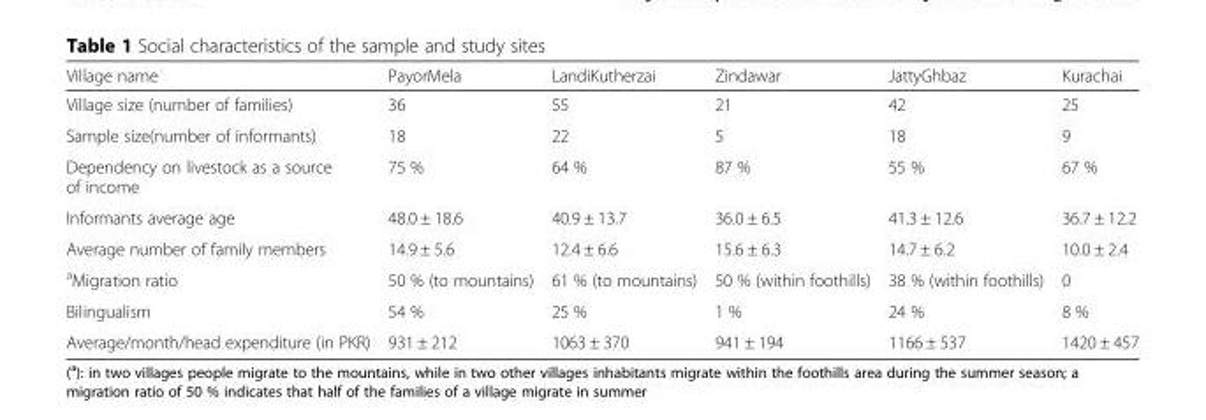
<table><thead><tr><td>Village name</td><td>PayorMela</td><td>LandiKutherzai</td><td>Zindawar</td><td>JattyGhbaz</td><td>Kurachai</td></tr></thead><tbody><tr><td>Village size (number of families)</td><td>36</td><td>55</td><td>21</td><td>42</td><td>25</td></tr><tr><td>Sample size(number of informants)</td><td>18</td><td>22</td><td>5</td><td>18</td><td>9</td></tr><tr><td>Dependency on livestock as a source of income</td><td>75 %</td><td>64 %</td><td>87 %</td><td>55 %</td><td>67 %</td></tr><tr><td>Informants average age</td><td>48.0 ± 18.6</td><td>40.9 ± 13.7</td><td>36.0 ± 6.5</td><td>41.3 ± 12.6</td><td>36.7 ± 12.2</td></tr><tr><td>Average number of family members</td><td>14.9 ± 5.6</td><td>12.4 ± 6.6</td><td>15.6 ± 6.3</td><td>14.7 ± 6.2</td><td>10.0 ± 2.4</td></tr><tr><td><sup>a</sup>Migration ratio</td><td>50 % (to mountains)</td><td>61 % (to mountains)</td><td>50 % (within foothills)</td><td>38 % (within foothills)</td><td>0</td></tr><tr><td>Bilingualism</td><td>54 %</td><td>25 %</td><td>1 %</td><td>24 %</td><td>8 %</td></tr><tr><td>Average/month/head expenditure (in PKR)</td><td>931 ± 212</td><td>1063 ± 370</td><td>941 ± 194</td><td>1166 ± 537</td><td>1420 ± 457</td></tr></tbody></table>